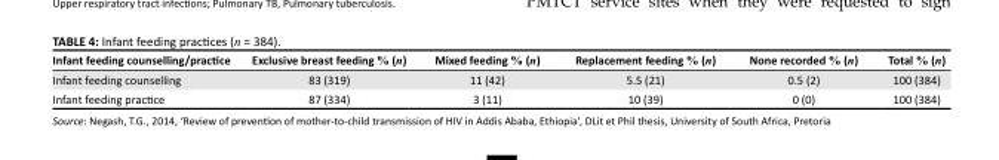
<table><thead><tr><td>Infant feeding counselling/practice</td><td>Exclusive breast feeding % (n)</td><td>Mixed feeding % (n)</td><td>Replacement feeding % (n)</td><td>None recorded % (n)</td><td>Total % (n)</td></tr></thead><tbody><tr><td>Infant feeding counselling</td><td>83 (319)</td><td>11 (42)</td><td>5.5 (21)</td><td>0.5 (2)</td><td>100 (384)</td></tr><tr><td>Infant feeding practice</td><td>87 (334)</td><td>3 (11)</td><td>10 (39)</td><td>0 (0)</td><td>100 (384)</td></tr></tbody></table>